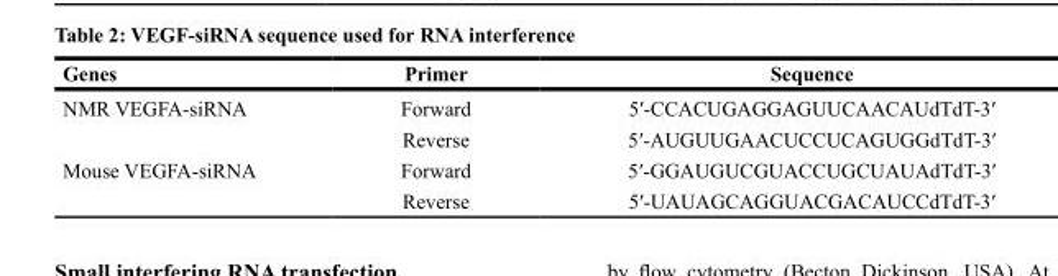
<table><thead><tr><td>Genes</td><td>Primer</td><td>Sequence</td></tr></thead><tbody><tr><td rowspan="2">NMR VEGFA-siRNA</td><td>Forward</td><td>5′-CCACUGAGGAGUUCAACAUdTdT-3′</td></tr><tr><td>Reverse</td><td>5′-AUGUUGAACUCCUCAGUGGdTdT-3′</td></tr><tr><td rowspan="2">Mouse VEGFA-siRNA</td><td>Forward</td><td>5′-GGAUGUCGUACCUGCUAUAdTdT-3′</td></tr><tr><td>Reverse</td><td>5′-UAUAGCAGGUACGACAUCCdTdT-3′</td></tr></tbody></table>